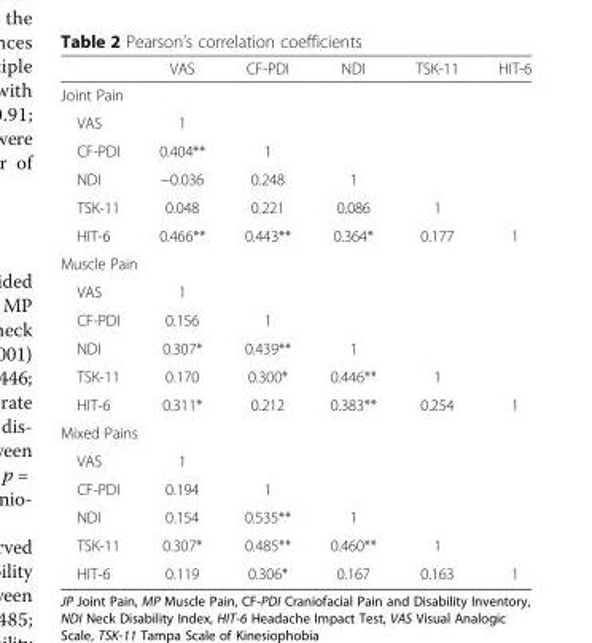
<table><thead><tr><td></td><td>VAS</td><td>CF-PDI</td><td>NDI</td><td>TSK-11</td><td>HIT-6</td></tr></thead><tbody><tr><td colspan="6">Joint Pain</td></tr><tr><td>VAS</td><td>1</td><td></td><td></td><td></td><td></td></tr><tr><td>CF-PDI</td><td>0.404**</td><td>1</td><td></td><td></td><td></td></tr><tr><td>NDI</td><td>−0.036</td><td>0.248</td><td>1</td><td></td><td></td></tr><tr><td>TSK-11</td><td>0.048</td><td>0.221</td><td>0.086</td><td>1</td><td></td></tr><tr><td>HIT-6</td><td>0.466**</td><td>0.443**</td><td>0.364*</td><td>0.177</td><td>1</td></tr><tr><td colspan="6">Muscle Pain</td></tr><tr><td>VAS</td><td>1</td><td></td><td></td><td></td><td></td></tr><tr><td>CF-PDI</td><td>0.156</td><td>1</td><td></td><td></td><td></td></tr><tr><td>NDI</td><td>0.307*</td><td>0.439**</td><td>1</td><td></td><td></td></tr><tr><td>TSK-11</td><td>0.170</td><td>0.300*</td><td>0.446**</td><td>1</td><td></td></tr><tr><td>HIT-6</td><td>0.311*</td><td>0.212</td><td>0.383**</td><td>0.254</td><td>1</td></tr><tr><td colspan="6">Mixed Pains</td></tr><tr><td>VAS</td><td>1</td><td></td><td></td><td></td><td></td></tr><tr><td>CF-PDI</td><td>0.194</td><td>1</td><td></td><td></td><td></td></tr><tr><td>NDI</td><td>0.154</td><td>0.535**</td><td>1</td><td></td><td></td></tr><tr><td>TSK-11</td><td>0.307*</td><td>0.485**</td><td>0.460**</td><td>1</td><td></td></tr><tr><td>HIT-6</td><td>0.119</td><td>0.306*</td><td>0.167</td><td>0.163</td><td>1</td></tr></tbody></table>